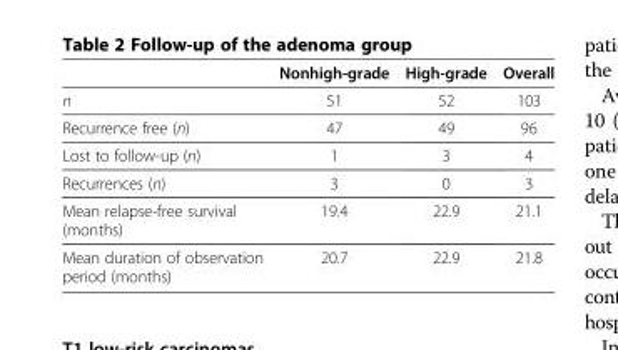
<table><thead><tr><td></td><td>Nonhigh-grade</td><td>High-grade</td><td>Overall</td></tr></thead><tbody><tr><td>n</td><td>51</td><td>52</td><td>103</td></tr><tr><td>Recurrence free (n)</td><td>47</td><td>49</td><td>96</td></tr><tr><td>Lost to follow-up (n)</td><td>1</td><td>3</td><td>4</td></tr><tr><td>Recurrences (n)</td><td>3</td><td>0</td><td>3</td></tr><tr><td>Mean relapse-free survival (months)</td><td>19.4</td><td>22.9</td><td>21.1</td></tr><tr><td>Mean duration of observation period (months)</td><td>20.7</td><td>22.9</td><td>21.8</td></tr></tbody></table>